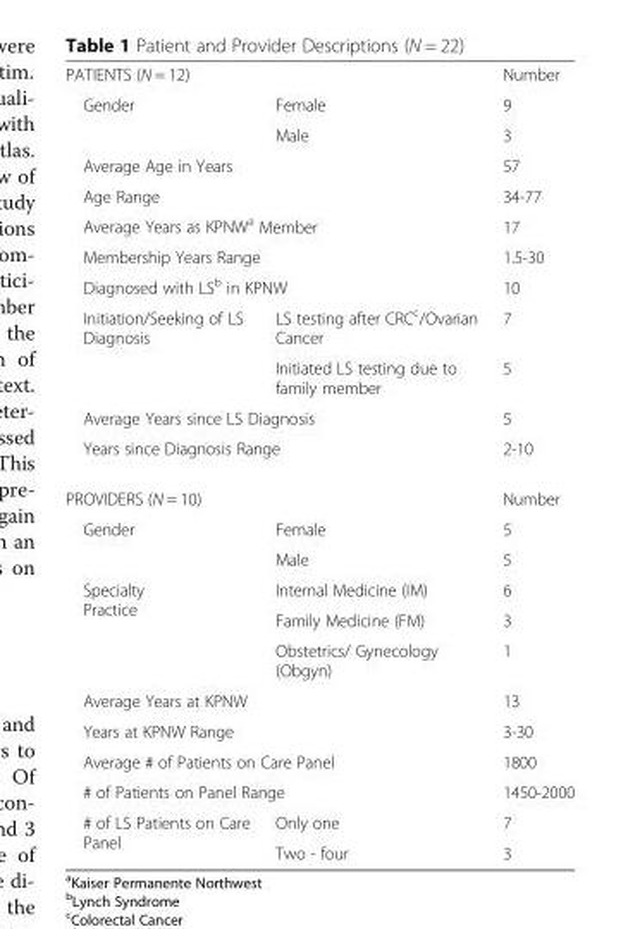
<table><tbody><tr><td colspan="2">PATIENTS (N = 12)</td><td>Number</td></tr><tr><td rowspan="2">Gender</td><td>Female</td><td>9</td></tr><tr><td>Male</td><td>3</td></tr><tr><td colspan="2">Average Age in Years</td><td>57</td></tr><tr><td colspan="2">Age Range</td><td>34-77</td></tr><tr><td colspan="2">Average Years as KPNW<sup>a</sup> Member</td><td>17</td></tr><tr><td colspan="2">Membership Years Range</td><td>1.5-30</td></tr><tr><td colspan="2">Diagnosed with LS<sup>b</sup> in KPNW</td><td>10</td></tr><tr><td rowspan="2">Initiation/Seeking of LS Diagnosis</td><td>LS testing after CRC<sup>c</sup>/Ovarian Cancer</td><td>7</td></tr><tr><td>Initiated LS testing due to family member</td><td>5</td></tr><tr><td colspan="2">Average Years since LS Diagnosis</td><td>5</td></tr><tr><td colspan="2">Years since Diagnosis Range</td><td>2-10</td></tr><tr><td colspan="2">PROVIDERS (N = 10)</td><td>Number</td></tr><tr><td rowspan="2">Gender</td><td>Female</td><td>5</td></tr><tr><td>Male</td><td>5</td></tr><tr><td rowspan="3">Specialty Practice</td><td>Internal Medicine (IM)</td><td>6</td></tr><tr><td>Family Medicine (FM)</td><td>3</td></tr><tr><td>Obstetrics/ Gynecology (Obgyn)</td><td>1</td></tr><tr><td colspan="2">Average Years at KPNW</td><td>13</td></tr><tr><td colspan="2">Years at KPNW Range</td><td>3-30</td></tr><tr><td colspan="2">Average # of Patients on Care Panel</td><td>1800</td></tr><tr><td colspan="2"># of Patients on Panel Range</td><td>1450-2000</td></tr><tr><td rowspan="2"># of LS Patients on Care Panel</td><td>Only one</td><td>7</td></tr><tr><td>Two - four</td><td>3</td></tr></tbody></table>